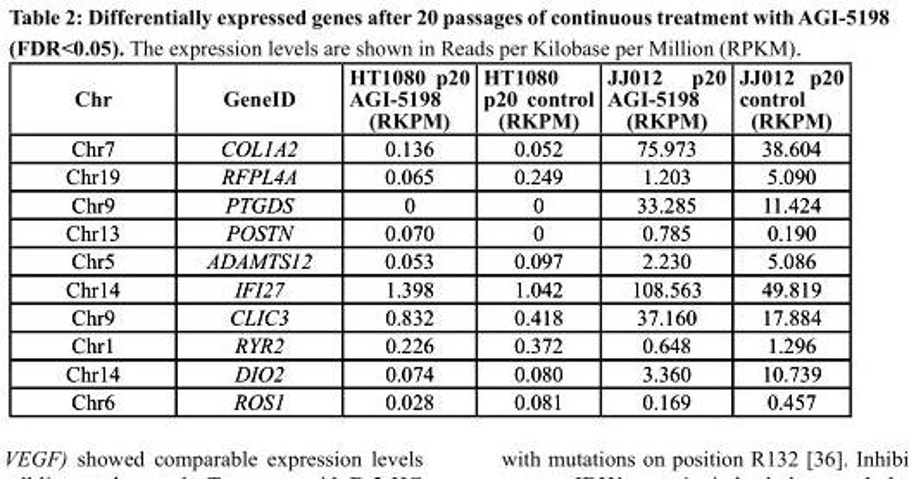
<table><thead><tr><td>chr</td><td>GeneId</td><td>HT1080 p20 AGI-5198 (RKPM)</td><td>HT1080 p20 control (RKPM)</td><td>JJ012 p20 AGI-5198 (RKPM)</td><td>JJ012 p20 control (RKPM)</td></tr></thead><tbody><tr><td>Chr7</td><td>COL1A2</td><td>0.136</td><td>0.052</td><td>75.973</td><td>38.604</td></tr><tr><td>Chr19</td><td>RFPL4A</td><td>0.065</td><td>0.249</td><td>1.203</td><td>5.090</td></tr><tr><td>Chr9</td><td>PTGDS</td><td>0</td><td>0</td><td>33.285</td><td>11.424</td></tr><tr><td>Chr13</td><td>POSTN</td><td>0.070</td><td>0</td><td>0.785</td><td>0.190</td></tr><tr><td>Chr5</td><td>ADAMTS12</td><td>0.053</td><td>0.097</td><td>2.230</td><td>5.086</td></tr><tr><td>Chr14</td><td>IFI27</td><td>1.398</td><td>1.042</td><td>108.563</td><td>49.819</td></tr><tr><td>Chr9</td><td>CLIC3</td><td>0.832</td><td>0.418</td><td>37.160</td><td>17.884</td></tr><tr><td>Chr1</td><td>RYR2</td><td>0.226</td><td>0.372</td><td>0.648</td><td>1.296</td></tr><tr><td>Chr14</td><td>DIO2</td><td>0.074</td><td>0.080</td><td>3.360</td><td>10.739</td></tr><tr><td>Chr6</td><td>ROS1</td><td>0.028</td><td>0.081</td><td>0.169</td><td>0.457</td></tr></tbody></table>